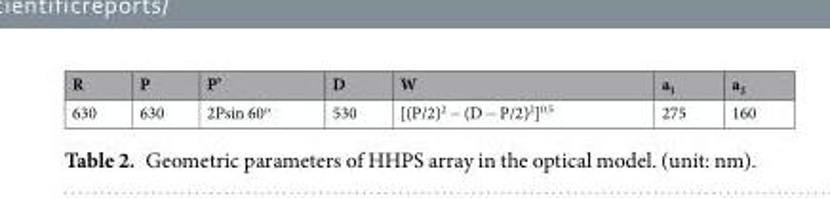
<table><thead><tr><td>R</td><td>P</td><td>P’</td><td>D</td><td>W</td><td>a<sub>1</sub></td><td>a<sub>2</sub></td></tr></thead><tbody><tr><td>630</td><td>630</td><td>2Psin 60<sup>o</sup></td><td>530</td><td>[(P/2)<sup>2</sup> − (D − P/2)<sup>2</sup>]<sup>0.5</sup></td><td>275</td><td>160</td></tr></tbody></table>